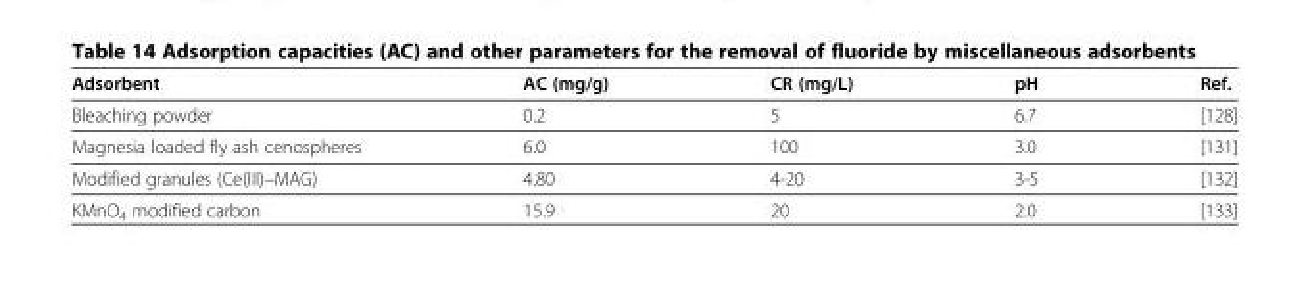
<table><thead><tr><td>Adsorbent</td><td>AC (mg/g)</td><td>CR (mg/L)</td><td>pH</td><td>Ref.</td></tr></thead><tbody><tr><td>Bleaching powder</td><td>0.2</td><td>5</td><td>6.7</td><td>[128]</td></tr><tr><td>Magnesia loaded fly ash cenospheres</td><td>6.0</td><td>100</td><td>3.0</td><td>[131]</td></tr><tr><td>Modified granules (Ce(III)–MAG)</td><td>4.80</td><td>4-20</td><td>3-5</td><td>[132]</td></tr><tr><td>KMnO<sub>4</sub> modified carbon</td><td>15.9</td><td>20</td><td>2.0</td><td>[133]</td></tr></tbody></table>